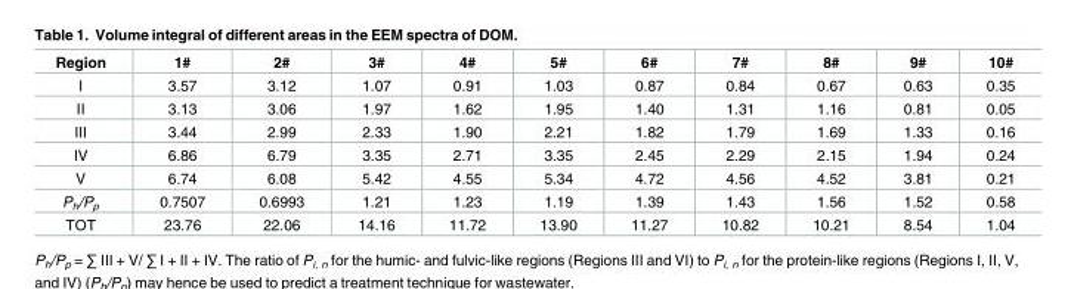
<table><thead><tr><td>Region</td><td>1#</td><td>2#</td><td>3#</td><td>4#</td><td>5#</td><td>6#</td><td>7#</td><td>8#</td><td>9#</td><td>10#</td></tr></thead><tbody><tr><td>I</td><td>3.57</td><td>3.12</td><td>1.07</td><td>0.91</td><td>1.03</td><td>0.87</td><td>0.84</td><td>0.67</td><td>0.63</td><td>0.35</td></tr><tr><td>II</td><td>3.13</td><td>3.06</td><td>1.97</td><td>1.62</td><td>1.95</td><td>1.40</td><td>1.31</td><td>1.16</td><td>0.81</td><td>0.05</td></tr><tr><td>III</td><td>3.44</td><td>2.99</td><td>2.33</td><td>1.90</td><td>2.21</td><td>1.82</td><td>1.79</td><td>1.69</td><td>1.33</td><td>0.16</td></tr><tr><td>IV</td><td>6.86</td><td>6.79</td><td>3.35</td><td>2.71</td><td>3.35</td><td>2.45</td><td>2.29</td><td>2.15</td><td>1.94</td><td>0.24</td></tr><tr><td>V</td><td>6.74</td><td>6.08</td><td>5.42</td><td>4.55</td><td>5.34</td><td>4.72</td><td>4.56</td><td>4.52</td><td>3.81</td><td>0.21</td></tr><tr><td>P<sub>h</sub>/P<sub>p</sub></td><td>0.7507</td><td>0.6993</td><td>1.21</td><td>1.23</td><td>1.19</td><td>1.39</td><td>1.43</td><td>1.56</td><td>1.52</td><td>0.58</td></tr><tr><td>TOT</td><td>23.76</td><td>22.06</td><td>14.16</td><td>11.72</td><td>13.90</td><td>11.27</td><td>10.82</td><td>10.21</td><td>8.54</td><td>1.04</td></tr></tbody></table>